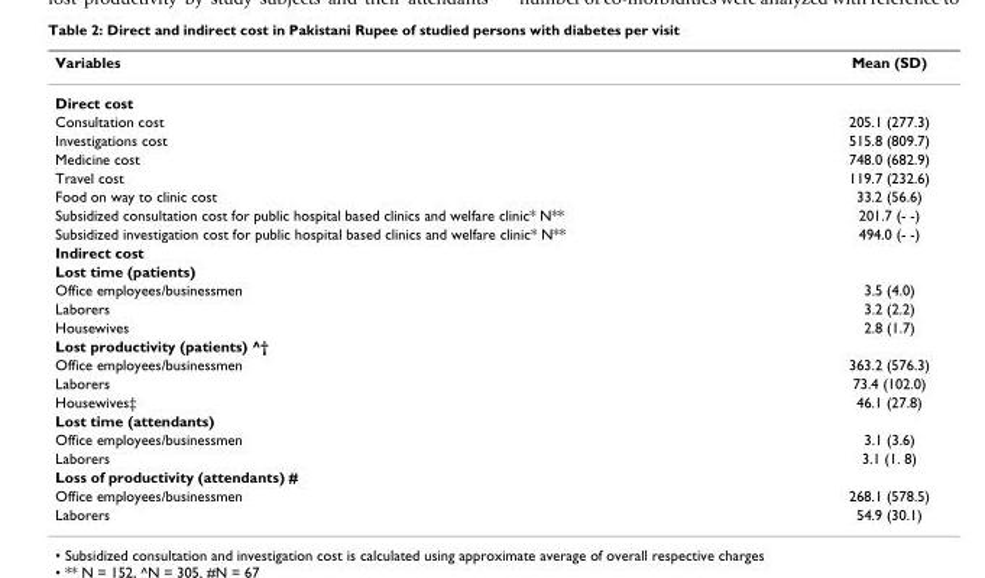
<table><thead><tr><td>Variables</td><td>Mean (SD)</td></tr></thead><tbody><tr><td colspan="2">Direct cost</td></tr><tr><td>Consultation cost</td><td>205.1 (277.3)</td></tr><tr><td>Investigations cost</td><td>515.8 (809.7)</td></tr><tr><td>Medicine cost</td><td>748.0 (682.9)</td></tr><tr><td>Travel cost</td><td>119.7 (232.6)</td></tr><tr><td>Food on way to clinic cost</td><td>33.2 (56.6)</td></tr><tr><td>Subsidized consultation cost for public hospital based clinics and welfare clinic* N**</td><td>201.7 (- -)</td></tr><tr><td>Subsidized investigation cost for public hospital based clinics and welfare clinic* N**</td><td>494.0 (- -)</td></tr><tr><td colspan="2">Indirect cost</td></tr><tr><td colspan="2">Lost time (patients)</td></tr><tr><td>Office employees/businessmen</td><td>3.5 (4.0)</td></tr><tr><td>Laborers</td><td>3.2 (2.2)</td></tr><tr><td>Housewives</td><td>2.8 (1.7)</td></tr><tr><td colspan="2">Lost productivity (patients) ^†</td></tr><tr><td>Office employees/businessmen</td><td>363.2 (576.3)</td></tr><tr><td>Laborers</td><td>73.4 (102.0)</td></tr><tr><td>Housewives‡</td><td>46.1 (27.8)</td></tr><tr><td colspan="2">Lost time (attendants)</td></tr><tr><td>Office employees/businessmen</td><td>3.1 (3.6)</td></tr><tr><td>Laborers</td><td>3.1 (1. 8)</td></tr><tr><td colspan="2">Loss of productivity (attendants) #</td></tr><tr><td>Office employees/businessmen</td><td>268.1 (578.5)</td></tr><tr><td>Laborers</td><td>54.9 (30.1)</td></tr></tbody></table>